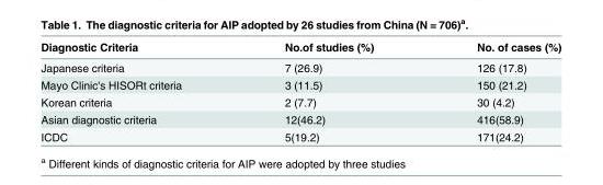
<table><thead><tr><td>Diagnostic Criteria</td><td>No.of studies (%)</td><td>No. of cases (%)</td></tr></thead><tbody><tr><td>Japanese criteria</td><td>7 (26.9)</td><td>126 (17.8)</td></tr><tr><td>Mayo Clinic&#x27;s HISORt criteria</td><td>3 (11.5)</td><td>150 (21.2)</td></tr><tr><td>Korean criteria</td><td>2 (7.7)</td><td>30 (4.2)</td></tr><tr><td>Asian diagnostic criteria</td><td>12(46.2)</td><td>416(58.9)</td></tr><tr><td>ICDC</td><td>5(19.2)</td><td>171(24.2)</td></tr></tbody></table>